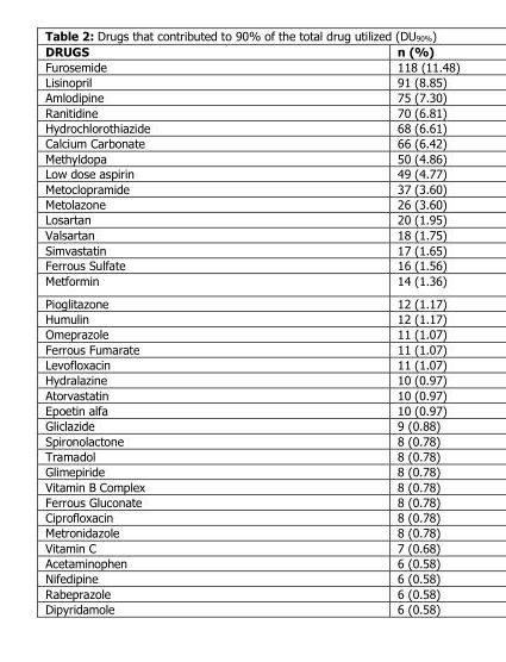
<table><thead><tr><td>DRUGS</td><td>n (%)</td></tr></thead><tbody><tr><td>Furosemide</td><td>118 (11.48)</td></tr><tr><td>Lisinopril</td><td>91 (8.85)</td></tr><tr><td>Amlodipine</td><td>75 (7.30)</td></tr><tr><td>Ranitidine</td><td>70 (6.81)</td></tr><tr><td>Hydrochlorothiazide</td><td>68 (6.61)</td></tr><tr><td>Calcium Carbonate</td><td>66 (6.42)</td></tr><tr><td>Methyldopa</td><td>50 (4.86)</td></tr><tr><td>Low dose aspirin</td><td>49 (4.77)</td></tr><tr><td>Metoclopramide</td><td>37 (3.60)</td></tr><tr><td>Metolazone</td><td>26 (3.60)</td></tr><tr><td>Losartan</td><td>20 (1.95)</td></tr><tr><td>Valsartan</td><td>18 (1.75)</td></tr><tr><td>Simvastatin</td><td>17 (1.65)</td></tr><tr><td>Ferrous Sulfate</td><td>16 (1.56)</td></tr><tr><td>Metformin</td><td>14 (1.36)</td></tr><tr><td>Pioglitazone</td><td>12 (1.17)</td></tr><tr><td>Humulin</td><td>12 (1.17)</td></tr><tr><td>Omeprazole</td><td>11 (1.07)</td></tr><tr><td>Ferrous Fumarate</td><td>11 (1.07)</td></tr><tr><td>Levofloxacin</td><td>11 (1.07)</td></tr><tr><td>Hydralazine</td><td>10 (0.97)</td></tr><tr><td>Atorvastatin</td><td>10 (0.97)</td></tr><tr><td>Epoetin alfa</td><td>10 (0.97)</td></tr><tr><td>Gliclazide</td><td>9 (0.88)</td></tr><tr><td>Spironolactone</td><td>8 (0.78)</td></tr><tr><td>Tramadol</td><td>8 (0.78)</td></tr><tr><td>Glimepiride</td><td>8 (0.78)</td></tr><tr><td>Vitamin B Complex</td><td>8 (0.78)</td></tr><tr><td>Ferrous Gluconate</td><td>8 (0.78)</td></tr><tr><td>Ciprofloxacin</td><td>8 (0.78)</td></tr><tr><td>Metronidazole</td><td>8 (0.78)</td></tr><tr><td>Vitamin C</td><td>7 (0.68)</td></tr><tr><td>Acetaminophen</td><td>6 (0.58)</td></tr><tr><td>Nifedipine</td><td>6 (0.58)</td></tr><tr><td>Rabeprazole</td><td>6 (0.58)</td></tr><tr><td>Dipyridamole</td><td>6 (0.58)</td></tr></tbody></table>